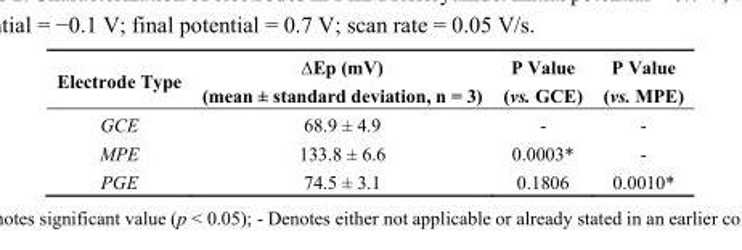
<table><thead><tr><td>Electrode Type</td><td>∆Ep (mV) (mean ± standard deviation, n = 3)</td><td>P Value (vs. GCE)</td><td>P Value (vs. MPE)</td></tr></thead><tbody><tr><td>GCE</td><td>68.9 ± 4.9</td><td>-</td><td>-</td></tr><tr><td>MPE</td><td>133.8 ± 6.6</td><td>0.0003*</td><td>-</td></tr><tr><td>PGE</td><td>74.5 ± 3.1</td><td>0.1806</td><td>0.0010*</td></tr></tbody></table>